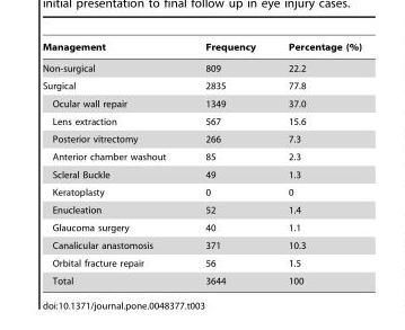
<table><thead><tr><td>Management</td><td>Frequency</td><td>Percentage (%)</td></tr></thead><tbody><tr><td>Non-surgical</td><td>809</td><td>22.2</td></tr><tr><td>Surgical</td><td>2835</td><td>77.8</td></tr><tr><td>Ocular wall repair</td><td>1349</td><td>37.0</td></tr><tr><td>Lens extraction</td><td>567</td><td>15.6</td></tr><tr><td>Posterior vitrectomy</td><td>266</td><td>7.3</td></tr><tr><td>Anterior chamber washout</td><td>85</td><td>2.3</td></tr><tr><td>Scleral Buckle</td><td>49</td><td>1.3</td></tr><tr><td>Keratoplasty</td><td>0</td><td>0</td></tr><tr><td>Enucleation</td><td>52</td><td>1.4</td></tr><tr><td>Glaucoma surgery</td><td>40</td><td>1.1</td></tr><tr><td>Canalicular anastomosis</td><td>371</td><td>10.3</td></tr><tr><td>Orbital fracture repair</td><td>56</td><td>1.5</td></tr><tr><td>Total</td><td>3644</td><td>100</td></tr></tbody></table>